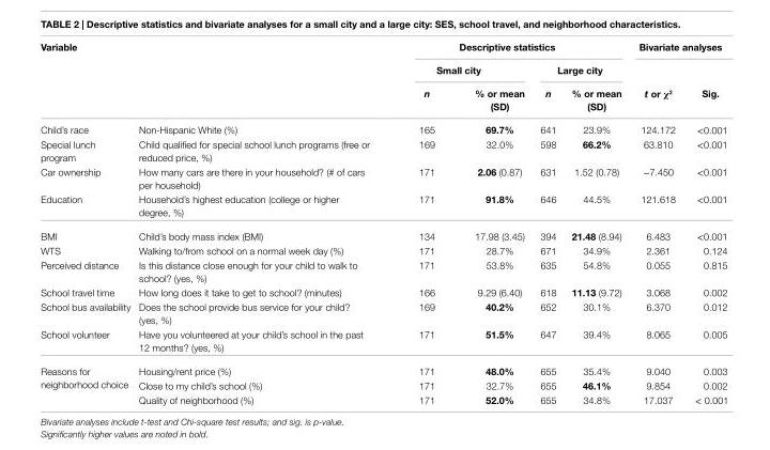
<table><thead><tr><td rowspan="3">Variable</td><td rowspan="3"></td><td colspan="4">Descriptive statistics</td><td colspan="2">Bivariate analyses</td></tr><tr><td colspan="2">small city</td><td colspan="2">large city</td><td rowspan="2">t or χ<sup>2</sup></td><td rowspan="2">sig.</td></tr><tr><td>n</td><td>% or mean (sD)</td><td>n</td><td>% or mean (sD)</td></tr></thead><tbody><tr><td>Child’s race</td><td>Non-Hispanic White (%)</td><td>165</td><td>69.7%</td><td>641</td><td>23.9%</td><td>124.172</td><td>&lt;0.001</td></tr><tr><td>Special lunch program</td><td>Child qualified for special school lunch programs (free or reduced price, %)</td><td>169</td><td>32.0%</td><td>598</td><td>66.2%</td><td>63.810</td><td>&lt;0.001</td></tr><tr><td>Car ownership</td><td>How many cars are there in your household? (# of cars per household)</td><td>171</td><td>2.06 (0.87)</td><td>631</td><td>1.52 (0.78)</td><td>−7.450</td><td>&lt;0.001</td></tr><tr><td>Education</td><td>Household’s highest education (college or higher degree, %)</td><td>171</td><td>91.8%</td><td>646</td><td>44.5%</td><td>121.618</td><td>&lt;0.001</td></tr><tr><td>BMI</td><td>Child’s body mass index (BMI)</td><td>134</td><td>17.98 (3.45)</td><td>394</td><td>21.48 (8.94)</td><td>6.483</td><td>&lt;0.001</td></tr><tr><td>WTS</td><td>Walking to/from school on a normal week day (%)</td><td>171</td><td>28.7%</td><td>671</td><td>34.9%</td><td>2.361</td><td>0.124</td></tr><tr><td>Perceived distance</td><td>Is this distance close enough for your child to walk to school? (yes, %)</td><td>171</td><td>53.8%</td><td>635</td><td>54.8%</td><td>0.055</td><td>0.815</td></tr><tr><td>School travel time</td><td>How long does it take to get to school? (minutes)</td><td>166</td><td>9.29 (6.40)</td><td>618</td><td>11.13 (9.72)</td><td>3.068</td><td>0.002</td></tr><tr><td>School bus availability</td><td>Does the school provide bus service for your child? (yes, %)</td><td>169</td><td>40.2%</td><td>652</td><td>30.1%</td><td>6.370</td><td>0.012</td></tr><tr><td>School volunteer</td><td>Have you volunteered at your child’s school in the past 12 months? (yes, %)</td><td>171</td><td>51.5%</td><td>647</td><td>39.4%</td><td>8.065</td><td>0.005</td></tr><tr><td rowspan="3">Reasons for neighborhood choice</td><td>Housing/rent price (%)</td><td>171</td><td>48.0%</td><td>655</td><td>35.4%</td><td>9.040</td><td>0.003</td></tr><tr><td>Close to my child’s school (%)</td><td>171</td><td>32.7%</td><td>655</td><td>46.1%</td><td>9.854</td><td>0.002</td></tr><tr><td>Quality of neighborhood (%)</td><td>171</td><td>52.0%</td><td>655</td><td>34.8%</td><td>17.037</td><td>&lt; 0.001</td></tr></tbody></table>